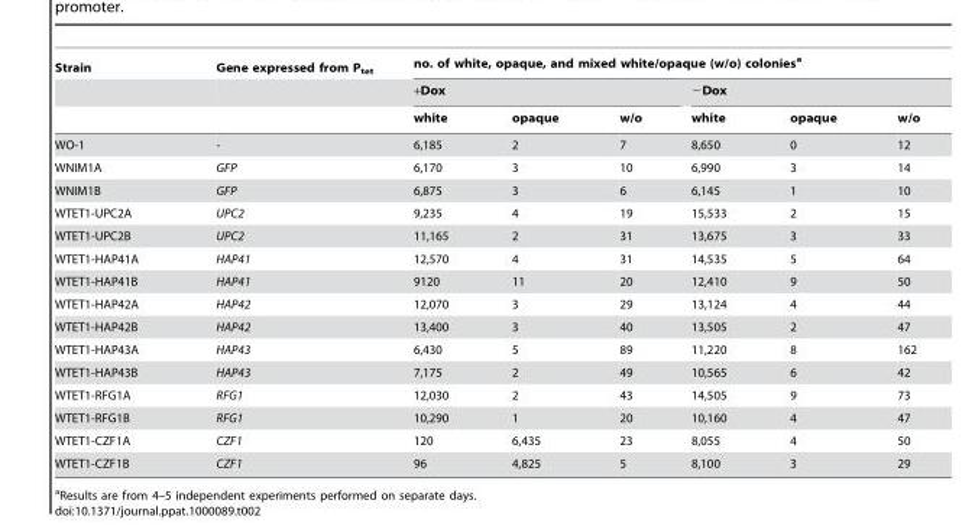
<table><thead><tr><td rowspan="3">Strain</td><td rowspan="3">Gene expressed from P<sub>tet</sub></td><td colspan="6">no. of white, opaque, and mixed white/opaque (w/o) colonies<sup>a</sup></td></tr><tr><td colspan="3">+Dox</td><td colspan="3">−Dox</td></tr><tr><td>white</td><td>opaque</td><td>w/o</td><td>white</td><td>opaque</td><td>w/o</td></tr></thead><tbody><tr><td>WO-1</td><td>-</td><td>6,185</td><td>2</td><td>7</td><td>8,650</td><td>0</td><td>12</td></tr><tr><td>WNIM1A</td><td>GFP</td><td>6,170</td><td>3</td><td>10</td><td>6,990</td><td>3</td><td>14</td></tr><tr><td>WNIM1B</td><td>GFP</td><td>6,875</td><td>3</td><td>6</td><td>6,145</td><td>1</td><td>10</td></tr><tr><td>WTET1-UPC2A</td><td>UPC2</td><td>9,235</td><td>4</td><td>19</td><td>15,533</td><td>2</td><td>15</td></tr><tr><td>WTET1-UPC2B</td><td>UPC2</td><td>11,165</td><td>2</td><td>31</td><td>13,675</td><td>3</td><td>33</td></tr><tr><td>WTET1-HAP41A</td><td>HAP41</td><td>12,570</td><td>4</td><td>31</td><td>14,535</td><td>5</td><td>64</td></tr><tr><td>WTET1-HAP41B</td><td>HAP41</td><td>9120</td><td>11</td><td>20</td><td>12,410</td><td>9</td><td>50</td></tr><tr><td>WTET1-HAP42A</td><td>HAP42</td><td>12,070</td><td>3</td><td>29</td><td>13,124</td><td>4</td><td>44</td></tr><tr><td>WTET1-HAP42B</td><td>HAP42</td><td>13,400</td><td>3</td><td>40</td><td>13,505</td><td>2</td><td>47</td></tr><tr><td>WTET1-HAP43A</td><td>HAP43</td><td>6,430</td><td>5</td><td>89</td><td>11,220</td><td>8</td><td>162</td></tr><tr><td>WTET1-HAP43B</td><td>HAP43</td><td>7,175</td><td>2</td><td>49</td><td>10,565</td><td>6</td><td>42</td></tr><tr><td>WTET1-RFG1A</td><td>RFG1</td><td>12,030</td><td>2</td><td>43</td><td>14,505</td><td>9</td><td>73</td></tr><tr><td>WTET1-RFG1B</td><td>RFG1</td><td>10,290</td><td>1</td><td>20</td><td>10,160</td><td>4</td><td>47</td></tr><tr><td>WTET1-CZF1A</td><td>CZF1</td><td>120</td><td>6,435</td><td>23</td><td>8,055</td><td>4</td><td>50</td></tr><tr><td>WTET1-CZF1B</td><td>CZF1</td><td>96</td><td>4,825</td><td>5</td><td>8,100</td><td>3</td><td>29</td></tr></tbody></table>